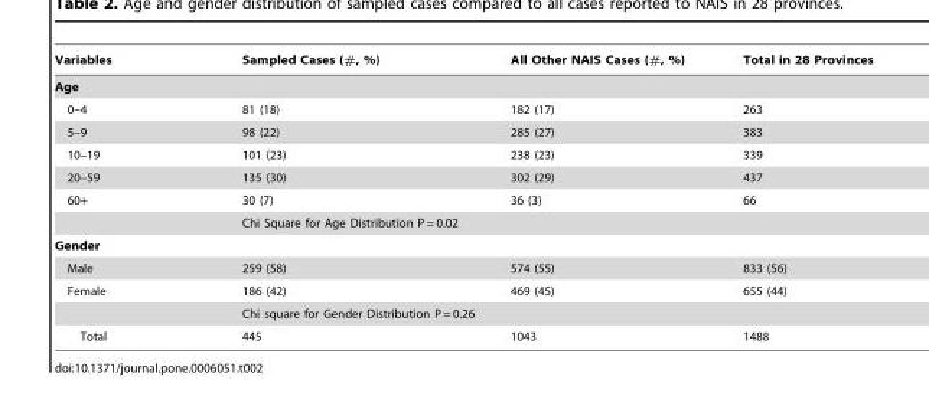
<table><thead><tr><td>Variables</td><td>Sampled Cases (#, %)</td><td>All Other NAIS Cases (#, %)</td><td>Total in 28 Provinces</td></tr></thead><tbody><tr><td colspan="4">Age</td></tr><tr><td>0–4</td><td>81 (18)</td><td>182 (17)</td><td>263</td></tr><tr><td>5–9</td><td>98 (22)</td><td>285 (27)</td><td>383</td></tr><tr><td>10–19</td><td>101 (23)</td><td>238 (23)</td><td>339</td></tr><tr><td>20–59</td><td>135 (30)</td><td>302 (29)</td><td>437</td></tr><tr><td rowspan="2">60+</td><td>30 (7)</td><td>36 (3)</td><td>66</td></tr><tr><td colspan="3">Chi Square for Age Distribution P = 0.02</td></tr><tr><td colspan="4">Gender</td></tr><tr><td>Male</td><td>259 (58)</td><td>574 (55)</td><td>833 (56)</td></tr><tr><td rowspan="2">Female</td><td>186 (42)</td><td>469 (45)</td><td>655 (44)</td></tr><tr><td colspan="3">Chi square for Gender Distribution P = 0.26</td></tr><tr><td>Total</td><td>445</td><td>1043</td><td>1488</td></tr></tbody></table>